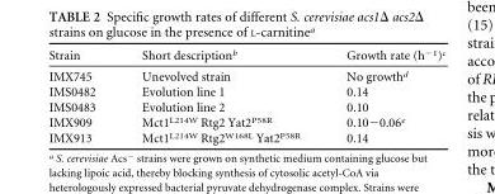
<table><thead><tr><td>Strain</td><td>Short description<sup>b</sup></td><td>Growth rate (h<sup>−1</sup>)<sup>c</sup></td></tr></thead><tbody><tr><td>IMX745</td><td>Unevolved strain</td><td>No growth<sup>d</sup></td></tr><tr><td>IMS0482</td><td>Evolution line 1</td><td>0.14</td></tr><tr><td>IMS0483</td><td>Evolution line 2</td><td>0.10</td></tr><tr><td>IMX909</td><td>Mct1<sup>L214W</sup> Rtg2 Yat2<sup>P58R</sup></td><td>0.10−0.06<sup>e</sup></td></tr><tr><td>IMX913</td><td>Mct1<sup>L214W</sup> Rtg2<sup>W168L</sup> Yat2<sup>P58R</sup></td><td>0.14</td></tr></tbody></table>